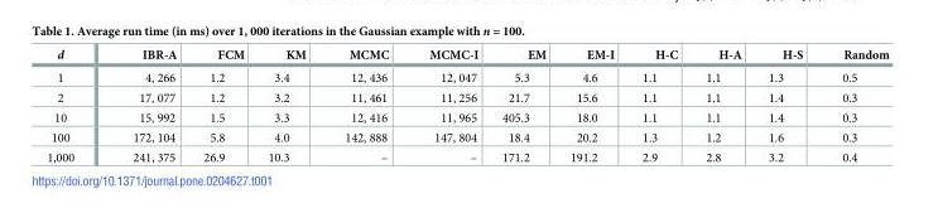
<table><thead><tr><td>d</td><td>IBR-A</td><td>FCM</td><td>KM</td><td>MCMC</td><td>MCMC-I</td><td>EM</td><td>EM-I</td><td>H-C</td><td>H-A</td><td>H-S</td><td>Random</td></tr></thead><tbody><tr><td>1</td><td>4, 266</td><td>1.2</td><td>3.4</td><td>12, 436</td><td>12, 047</td><td>5.3</td><td>4.6</td><td>1.1</td><td>1.1</td><td>1.3</td><td>0.5</td></tr><tr><td>2</td><td>17, 077</td><td>1.2</td><td>3.2</td><td>11, 461</td><td>11, 256</td><td>21.7</td><td>15.6</td><td>1.1</td><td>1.1</td><td>1.4</td><td>0.3</td></tr><tr><td>10</td><td>15, 992</td><td>1.5</td><td>3.3</td><td>12, 416</td><td>11, 965</td><td>405.3</td><td>18.0</td><td>1.1</td><td>1.1</td><td>1.4</td><td>0.3</td></tr><tr><td>100</td><td>172, 104</td><td>5.8</td><td>4.0</td><td>142, 888</td><td>147, 804</td><td>18.4</td><td>20.2</td><td>1.3</td><td>1.2</td><td>1.6</td><td>0.3</td></tr><tr><td>1,000</td><td>241, 375</td><td>26.9</td><td>10.3</td><td>–</td><td>–</td><td>171.2</td><td>191.2</td><td>2.9</td><td>2.8</td><td>3.2</td><td>0.4</td></tr></tbody></table>